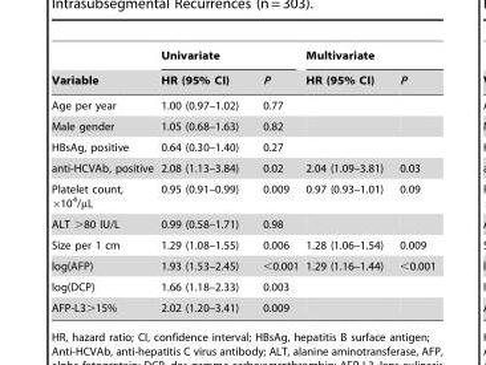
<table><thead><tr><td rowspan="2">Variable</td><td colspan="2">Univariate</td><td colspan="2">Multivariate</td></tr><tr><td>HR (95% CI)</td><td>P</td><td>HR (95% CI)</td><td>P</td></tr></thead><tbody><tr><td>Age per year</td><td>1.00 (0.97–1.02)</td><td>0.77</td><td></td><td></td></tr><tr><td>Male gender</td><td>1.05 (0.68–1.63)</td><td>0.82</td><td></td><td></td></tr><tr><td>HBsAg, positive</td><td>0.64 (0.30–1.40)</td><td>0.27</td><td></td><td></td></tr><tr><td>anti-HCVAb, positive</td><td>2.08 (1.13–3.84)</td><td>0.02</td><td>2.04 (1.09–3.81)</td><td>0.03</td></tr><tr><td>Platelet count, ×10<sup>4</sup>/μL</td><td>0.95 (0.91–0.99)</td><td>0.009</td><td>0.97 (0.93–1.01)</td><td>0.09</td></tr><tr><td>ALT &gt;80 IU/L</td><td>0.99 (0.58–1.71)</td><td>0.98</td><td></td><td></td></tr><tr><td>Size per 1 cm</td><td>1.29 (1.08–1.55)</td><td>0.006</td><td>1.28 (1.06–1.54)</td><td>0.009</td></tr><tr><td>log(AFP)</td><td>1.93 (1.53–2.45)</td><td>&lt;0.001</td><td>1.29 (1.16–1.44)</td><td>&lt;0.001</td></tr><tr><td>log(DCP)</td><td>1.66 (1.18–2.33)</td><td>0.003</td><td></td><td></td></tr><tr><td>AFP-L3&gt;15%</td><td>2.02 (1.20–3.41)</td><td>0.009</td><td></td><td></td></tr></tbody></table>